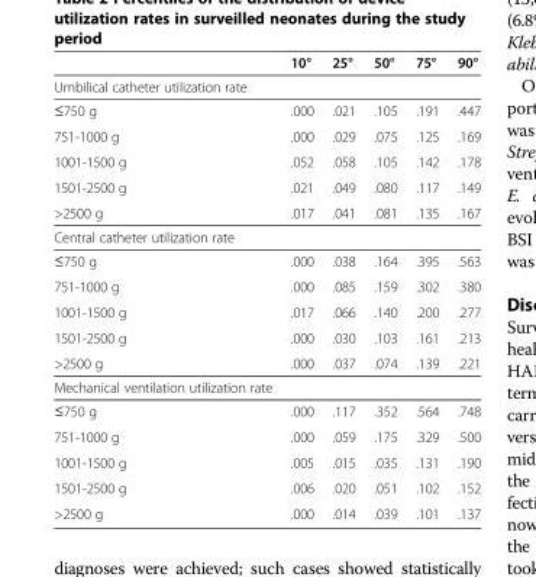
<table><thead><tr><td></td><td>10°</td><td>25°</td><td>50°</td><td>75°</td><td>90°</td></tr></thead><tbody><tr><td colspan="6">Umbilical catheter utilization rate</td></tr><tr><td>≤750 g</td><td>.000</td><td>.021</td><td>.105</td><td>.191</td><td>.447</td></tr><tr><td>751-1000 g</td><td>.000</td><td>.029</td><td>.075</td><td>.125</td><td>.169</td></tr><tr><td>1001-1500 g</td><td>.052</td><td>.058</td><td>.105</td><td>.142</td><td>.178</td></tr><tr><td>1501-2500 g</td><td>.021</td><td>.049</td><td>.080</td><td>.117</td><td>.149</td></tr><tr><td>&gt;2500 g</td><td>.017</td><td>.041</td><td>.081</td><td>.135</td><td>.167</td></tr><tr><td colspan="6">Central catheter utilization rate</td></tr><tr><td>≤750 g</td><td>.000</td><td>.038</td><td>.164</td><td>.395</td><td>.563</td></tr><tr><td>751-1000 g</td><td>.000</td><td>.085</td><td>.159</td><td>.302</td><td>.380</td></tr><tr><td>1001-1500 g</td><td>.017</td><td>.066</td><td>.140</td><td>.200</td><td>.277</td></tr><tr><td>1501-2500 g</td><td>.000</td><td>.030</td><td>.103</td><td>.161</td><td>.213</td></tr><tr><td>&gt;2500 g</td><td>.000</td><td>.037</td><td>.074</td><td>.139</td><td>.221</td></tr><tr><td colspan="6">Mechanical ventilation utilization rate</td></tr><tr><td>≤750 g</td><td>.000</td><td>.117</td><td>.352</td><td>.564</td><td>.748</td></tr><tr><td>751-1000 g</td><td>.000</td><td>.059</td><td>.175</td><td>.329</td><td>.500</td></tr><tr><td>1001-1500 g</td><td>.005</td><td>.015</td><td>.035</td><td>.131</td><td>.190</td></tr><tr><td>1501-2500 g</td><td>.006</td><td>.020</td><td>.051</td><td>.102</td><td>.152</td></tr><tr><td>&gt;2500 g</td><td>.000</td><td>.014</td><td>.039</td><td>.101</td><td>.137</td></tr></tbody></table>